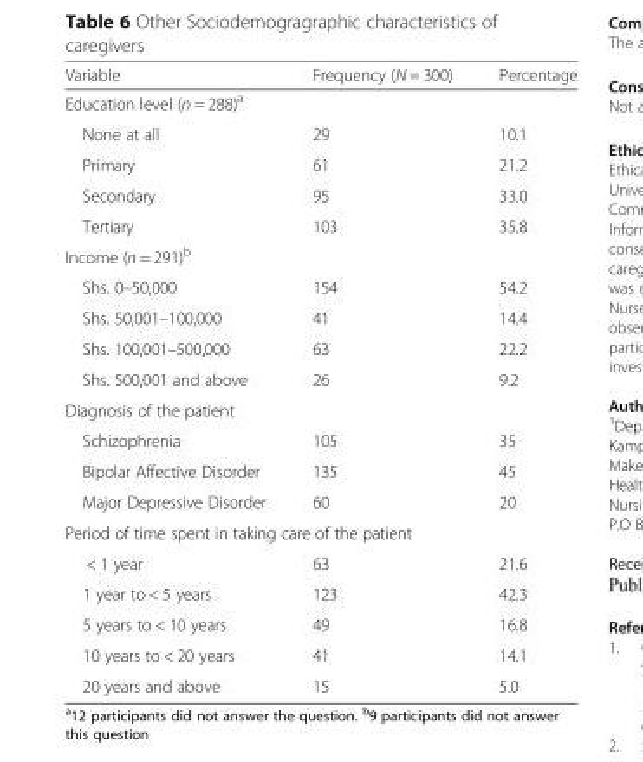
<table><thead><tr><td>Variable</td><td>Frequency (N = 300)</td><td>Percentage</td></tr></thead><tbody><tr><td colspan="3">Education level (n = 288)<sup>a</sup></td></tr><tr><td>None at all</td><td>29</td><td>10.1</td></tr><tr><td>Primary</td><td>61</td><td>21.2</td></tr><tr><td>Secondary</td><td>95</td><td>33.0</td></tr><tr><td>Tertiary</td><td>103</td><td>35.8</td></tr><tr><td colspan="3">Income (n = 291)<sup>b</sup></td></tr><tr><td>Shs. 0–50,000</td><td>154</td><td>54.2</td></tr><tr><td>Shs. 50,001–100,000</td><td>41</td><td>14.4</td></tr><tr><td>Shs. 100,001–500,000</td><td>63</td><td>22.2</td></tr><tr><td>Shs. 500,001 and above</td><td>26</td><td>9.2</td></tr><tr><td colspan="3">Diagnosis of the patient</td></tr><tr><td>Schizophrenia</td><td>105</td><td>35</td></tr><tr><td>Bipolar Affective Disorder</td><td>135</td><td>45</td></tr><tr><td>Major Depressive Disorder</td><td>60</td><td>20</td></tr><tr><td colspan="3">Period of time spent in taking care of the patient</td></tr><tr><td>&lt; 1 year</td><td>63</td><td>21.6</td></tr><tr><td>1 year to &lt; 5 years</td><td>123</td><td>42.3</td></tr><tr><td>5 years to &lt; 10 years</td><td>49</td><td>16.8</td></tr><tr><td>10 years to &lt; 20 years</td><td>41</td><td>14.1</td></tr><tr><td>20 years and above</td><td>15</td><td>5.0</td></tr></tbody></table>